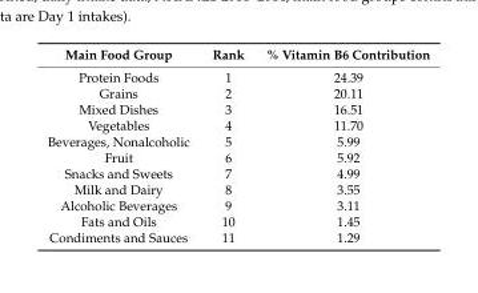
<table><thead><tr><td>Main Food Group</td><td>Rank</td><td>% Vitamin B6 Contribution</td></tr></thead><tbody><tr><td>Protein Foods</td><td>1</td><td>24.39</td></tr><tr><td>Grains</td><td>2</td><td>20.11</td></tr><tr><td>Mixed Dishes</td><td>3</td><td>16.51</td></tr><tr><td>Vegetables</td><td>4</td><td>11.70</td></tr><tr><td>Beverages, Nonalcoholic</td><td>5</td><td>5.99</td></tr><tr><td>Fruit</td><td>6</td><td>5.92</td></tr><tr><td>Snacks and Sweets</td><td>7</td><td>4.99</td></tr><tr><td>Milk and Dairy</td><td>8</td><td>3.55</td></tr><tr><td>Alcoholic Beverages</td><td>9</td><td>3.11</td></tr><tr><td>Fats and Oils</td><td>10</td><td>1.45</td></tr><tr><td>Condiments and Sauces</td><td>11</td><td>1.29</td></tr></tbody></table>